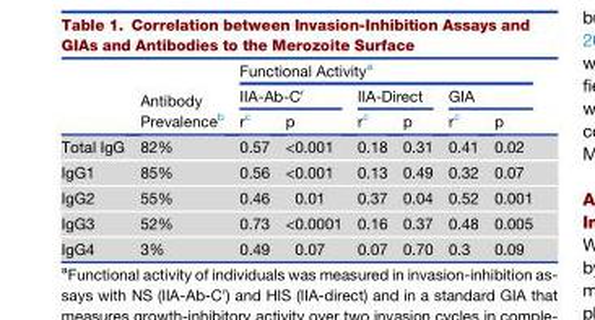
<table><thead><tr><td rowspan="3"></td><td rowspan="3">Antibody Prevalence<sup>b</sup></td><td colspan="6">Functional Activity<sup>a</sup></td></tr><tr><td colspan="2">IIA-Ab-C′</td><td colspan="2">IIA-Direct</td><td colspan="2">GIA</td></tr><tr><td>r<sup>c</sup></td><td>p</td><td>r<sup>c</sup></td><td>p</td><td>r<sup>c</sup></td><td>p</td></tr></thead><tbody><tr><td>Total IgG</td><td>82%</td><td>0.57</td><td>&lt;0.001</td><td>0.18</td><td>0.31</td><td>0.41</td><td>0.02</td></tr><tr><td>IgG1</td><td>85%</td><td>0.56</td><td>&lt;0.001</td><td>0.13</td><td>0.49</td><td>0.32</td><td>0.07</td></tr><tr><td>IgG2</td><td>55%</td><td>0.46</td><td>0.01</td><td>0.37</td><td>0.04</td><td>0.52</td><td>0.001</td></tr><tr><td>IgG3</td><td>52%</td><td>0.73</td><td>&lt;0.0001</td><td>0.16</td><td>0.37</td><td>0.48</td><td>0.005</td></tr><tr><td>IgG4</td><td>3%</td><td>0.49</td><td>0.07</td><td>0.07</td><td>0.70</td><td>0.3</td><td>0.09</td></tr></tbody></table>